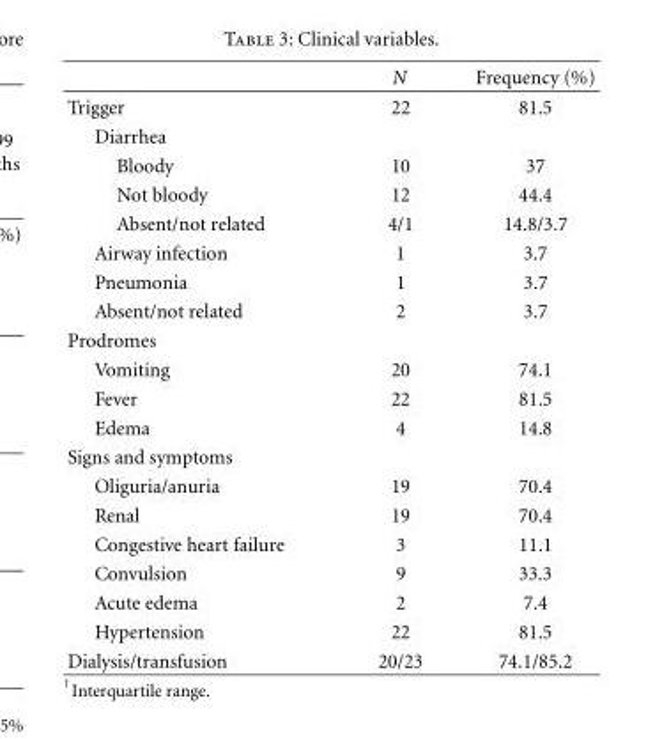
<table><thead><tr><td></td><td>N</td><td>Frequency (%)</td></tr></thead><tbody><tr><td>Trigger</td><td>22</td><td>81.5</td></tr><tr><td colspan="3">Diarrhea</td></tr><tr><td>Bloody</td><td>10</td><td>37</td></tr><tr><td>Not bloody</td><td>12</td><td>44.4</td></tr><tr><td>Absent/not related</td><td>4/1</td><td>14.8/3.7</td></tr><tr><td>Airway infection</td><td>1</td><td>3.7</td></tr><tr><td>Pneumonia</td><td>1</td><td>3.7</td></tr><tr><td>Absent/not related</td><td>2</td><td>3.7</td></tr><tr><td colspan="3">Prodromes</td></tr><tr><td>Vomiting</td><td>20</td><td>74.1</td></tr><tr><td>Fever</td><td>22</td><td>81.5</td></tr><tr><td>Edema</td><td>4</td><td>14.8</td></tr><tr><td colspan="3">Signs and symptoms</td></tr><tr><td>Oliguria/anuria</td><td>19</td><td>70.4</td></tr><tr><td>Renal</td><td>19</td><td>70.4</td></tr><tr><td>Congestive heart failure</td><td>3</td><td>11.1</td></tr><tr><td>Convulsion</td><td>9</td><td>33.3</td></tr><tr><td>Acute edema</td><td>2</td><td>7.4</td></tr><tr><td>Hypertension</td><td>22</td><td>81.5</td></tr><tr><td>Dialysis/transfusion</td><td>20/23</td><td>74.1/85.2</td></tr></tbody></table>